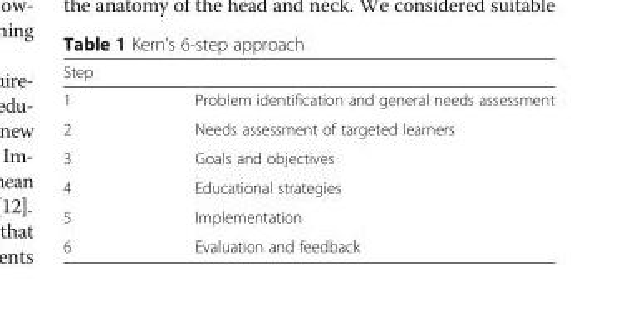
<table><thead><tr><td>Step</td><td></td></tr></thead><tbody><tr><td>1</td><td>Problem identification and general needs assessment</td></tr><tr><td>2</td><td>Needs assessment of targeted learners</td></tr><tr><td>3</td><td>Goals and objectives</td></tr><tr><td>4</td><td>Educational strategies</td></tr><tr><td>5</td><td>Implementation</td></tr><tr><td>6</td><td>Evaluation and feedback</td></tr></tbody></table>